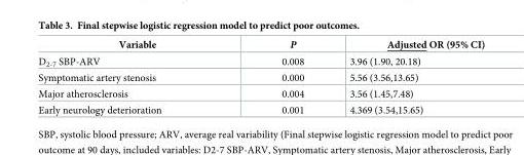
<table><thead><tr><td>Variable</td><td>P</td><td>Adjusted OR (95% CI)</td></tr></thead><tbody><tr><td>D<sub>2-7</sub> SBP-ARV</td><td>0.008</td><td>3.96 (1.90, 20.18)</td></tr><tr><td>Symptomatic artery stenosis</td><td>0.000</td><td>5.56 (3.56,13.65)</td></tr><tr><td>Major atherosclerosis</td><td>0.004</td><td>3.56 (1.45,7.48)</td></tr><tr><td>Early neurology deterioration</td><td>0.001</td><td>4.369 (3.54,15.65)</td></tr></tbody></table>